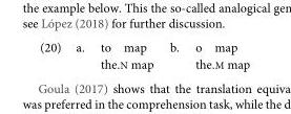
<table><tbody><tr><td rowspan="2">(20)</td><td>a.</td><td>to map</td><td>b.</td><td>o map</td></tr><tr><td></td><td>the.N map</td><td></td><td>the.M map</td></tr></tbody></table>